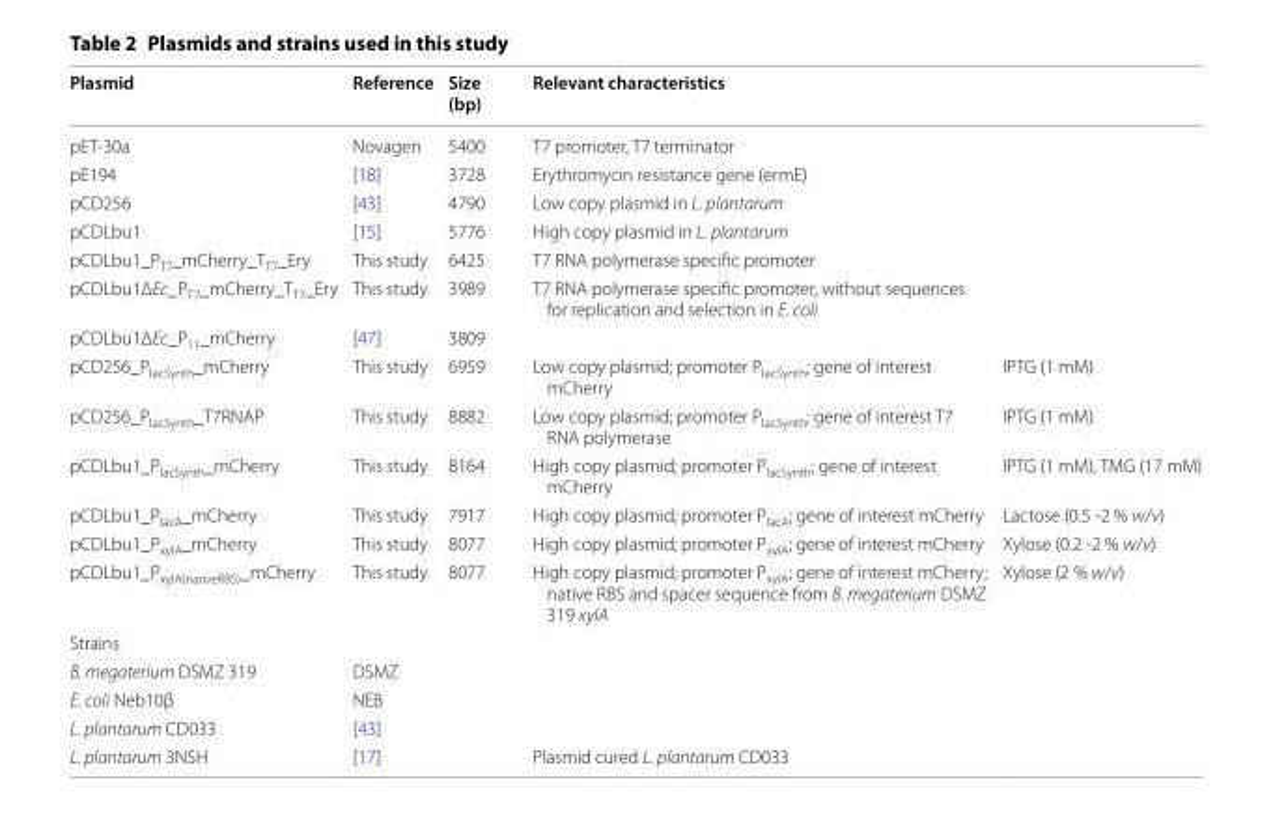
<table><thead><tr><td>Plasmid</td><td>Reference</td><td>Size (bp)</td><td>Relevant characteristics</td><td></td></tr></thead><tbody><tr><td>pET-30a</td><td>Novagen</td><td>5400</td><td>T7 promoter, T7 terminator</td><td></td></tr><tr><td>pE194</td><td>[18]</td><td>3728</td><td>Erythromycin resistance gene (ermE)</td><td></td></tr><tr><td>pCD256</td><td>[43]</td><td>4790</td><td>Low copy plasmid in L. plantarum</td><td></td></tr><tr><td>pCDLbu1</td><td>[15]</td><td>5776</td><td>High copy plasmid in L. plantarum</td><td></td></tr><tr><td>pCDLbu1_PT7_mCherry_TT7_Ery</td><td>This study</td><td>6425</td><td>T7 RNA polymerase specific promoter</td><td></td></tr><tr><td>pCDLbu1ΔEc_PT7_mCherry_TT7_Ery</td><td>This study</td><td>3989</td><td>T7 RNA polymerase specific promoter, without sequences for replication and selection in E. coli</td><td></td></tr><tr><td>pCDLbu1ΔEc_P11_mCherry</td><td>[47]</td><td>3809</td><td></td><td></td></tr><tr><td>pCD256_PlacSynth_mCherry</td><td>This study</td><td>6959</td><td>Low copy plasmid; promoter P<sub>lacSynth</sub>; gene of interest mCherry</td><td>IPTG (1 mM)</td></tr><tr><td>pCD256_PlacSynth_T7RNAP</td><td>This study</td><td>8882</td><td>Low copy plasmid; promoter P<sub>lacSynth</sub>; gene of interest T7 RNA polymerase</td><td>IPTG (1 mM)</td></tr><tr><td>pCDLbu1_PlacSynth_mCherry</td><td>This study</td><td>8164</td><td>High copy plasmid; promoter P<sub>lacSynth</sub>; gene of interest mCherry</td><td>IPTG (1 mM), TMG (17 mM)</td></tr><tr><td>pCDLbu1_PlacA_mCherry</td><td>This study</td><td>7917</td><td>High copy plasmid; promoter P<sub>lacA</sub>; gene of interest mCherry</td><td>Lactose (0.5 -2 % w/v)</td></tr><tr><td>pCDLbu1_PxylA_mCherry</td><td>This study</td><td>8077</td><td>High copy plasmid; promoter P<sub>xylA</sub>; gene of interest mCherry</td><td>Xylose (0.2 -2 % w/v)</td></tr><tr><td>pCDLbu1_PxylA(nativeRBS)_mCherry</td><td>This study</td><td>8077</td><td>High copy plasmid; promoter P<sub>xylA</sub>; gene of interest mCherry; native RBS and spacer sequence from B. megaterium DSMZ 319 xylA</td><td>Xylose (2 % w/v)</td></tr><tr><td colspan="5">Strains</td></tr><tr><td>B. megaterium DSMZ 319</td><td>DSMZ</td><td></td><td></td><td></td></tr><tr><td>E. coli Neb10β</td><td>NEB</td><td></td><td></td><td></td></tr><tr><td>L. plantarum CD033</td><td>[43]</td><td></td><td></td><td></td></tr><tr><td>L. plantarum 3NSH</td><td>[17]</td><td></td><td>Plasmid cured L. plantarum CD033</td><td></td></tr></tbody></table>